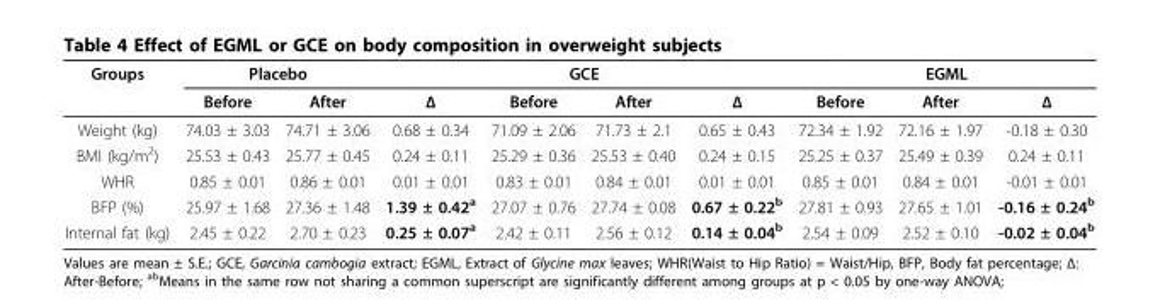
<table><thead><tr><td rowspan="2">Groups</td><td colspan="2">Placebo</td><td colspan="4">GCE</td><td colspan="3">EGML</td></tr><tr><td>Before</td><td>After</td><td>Δ</td><td>Before</td><td>After</td><td>Δ</td><td>Before</td><td>After</td><td>Δ</td></tr></thead><tbody><tr><td>Weight (kg)</td><td>74.03 ± 3.03</td><td>74.71 ± 3.06</td><td>0.68 ± 0.34</td><td>71.09 ± 2.06</td><td>71.73 ± 2.1</td><td>0.65 ± 0.43</td><td>72.34 ± 1.92</td><td>72.16 ± 1.97</td><td>-0.18 ± 0.30</td></tr><tr><td>BMI (kg/m<sup>2</sup>)</td><td>25.53 ± 0.43</td><td>25.77 ± 0.45</td><td>0.24 ± 0.11</td><td>25.29 ± 0.36</td><td>25.53 ± 0.40</td><td>0.24 ± 0.15</td><td>25.25 ± 0.37</td><td>25.49 ± 0.39</td><td>0.24 ± 0.11</td></tr><tr><td>WHR</td><td>0.85 ± 0.01</td><td>0.86 ± 0.01</td><td>0.01 ± 0.01</td><td>0.83 ± 0.01</td><td>0.84 ± 0.01</td><td>0.01 ± 0.01</td><td>0.85 ± 0.01</td><td>0.84 ± 0.01</td><td>-0.01 ± 0.01</td></tr><tr><td>BFP (%)</td><td>25.97 ± 1.68</td><td>27.36 ± 1.48</td><td>1.39 ± 0.42<sup>a</sup></td><td>27.07 ± 0.76</td><td>27.74 ± 0.08</td><td>0.67 ± 0.22<sup>b</sup></td><td>27.81 ± 0.93</td><td>27.65 ± 1.01</td><td>-0.16 ± 0.24<sup>b</sup></td></tr><tr><td>Internal fat (kg)</td><td>2.45 ± 0.22</td><td>2.70 ± 0.23</td><td>0.25 ± 0.07<sup>a</sup></td><td>2.42 ± 0.11</td><td>2.56 ± 0.12</td><td>0.14 ± 0.04<sup>b</sup></td><td>2.54 ± 0.09</td><td>2.52 ± 0.10</td><td>-0.02 ± 0.04<sup>b</sup></td></tr></tbody></table>